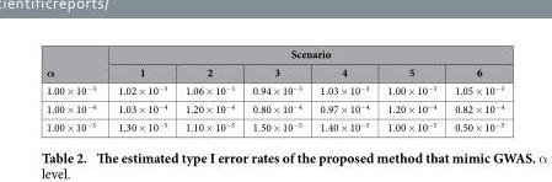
<table><thead><tr><td rowspan="2">α</td><td colspan="6">Scenario</td></tr><tr><td>1</td><td>2</td><td>3</td><td>4</td><td>5</td><td>6</td></tr></thead><tbody><tr><td>1.00 × 10<sup>−3</sup></td><td>1.02 × 10<sup>−3</sup></td><td>1.06 × 10<sup>−3</sup></td><td>0.94 × 10<sup>−3</sup></td><td>1.03 × 10<sup>−3</sup></td><td>1.00 × 10<sup>−3</sup></td><td>1.05 × 10<sup>−3</sup></td></tr><tr><td>1.00 × 10<sup>−4</sup></td><td>1.03 × 10<sup>−4</sup></td><td>1.20 × 10<sup>−4</sup></td><td>0.80 × 10<sup>−4</sup></td><td>0.97 × 10<sup>−4</sup></td><td>1.20 × 10<sup>−4</sup></td><td>0.82 × 10<sup>−4</sup></td></tr><tr><td>1.00 × 10<sup>−5</sup></td><td>1.30 × 10<sup>−5</sup></td><td>1.10 × 10<sup>−5</sup></td><td>1.50 × 10<sup>−5</sup></td><td>1.40 × 10<sup>−5</sup></td><td>1.00 × 10<sup>−5</sup></td><td>0.50 × 10<sup>−5</sup></td></tr></tbody></table>